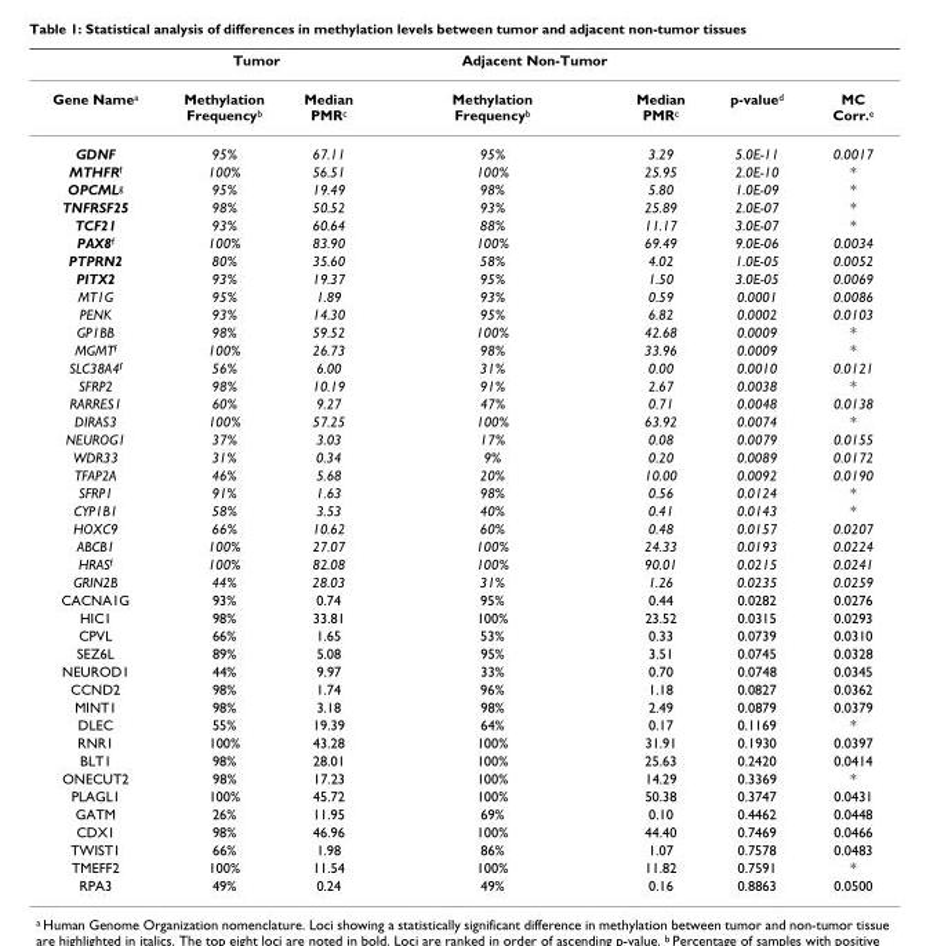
<table><thead><tr><td></td><td>Tumor</td><td></td><td>Adjacent Non-Tumor</td><td></td><td></td><td></td></tr></thead><tbody><tr><td>Gene Name<sup>a</sup></td><td>Methylation Frequency<sup>b</sup></td><td>Median PMR<sup>c</sup></td><td>Methylation Frequency<sup>b</sup></td><td>Median PMR<sup>c</sup></td><td>p-value<sup>d</sup></td><td>MC Corr.<sup>e</sup></td></tr><tr><td>GDNF</td><td>95%</td><td>67.11</td><td>95%</td><td>3.29</td><td>5.0E-11</td><td>0.0017</td></tr><tr><td>MTHFR<sup>f</sup></td><td>100%</td><td>56.51</td><td>100%</td><td>25.95</td><td>2.0E-10</td><td>*</td></tr><tr><td>OPCML<sup>g</sup></td><td>95%</td><td>19.49</td><td>98%</td><td>5.80</td><td>1.0E-09</td><td>*</td></tr><tr><td>TNFRSF25</td><td>98%</td><td>50.52</td><td>93%</td><td>25.89</td><td>2.0E-07</td><td>*</td></tr><tr><td>TCF21</td><td>93%</td><td>60.64</td><td>88%</td><td>11.17</td><td>3.0E-07</td><td>*</td></tr><tr><td>PAX8<sup>f</sup></td><td>100%</td><td>83.90</td><td>100%</td><td>69.49</td><td>9.0E-06</td><td>0.0034</td></tr><tr><td>PTPRN2</td><td>80%</td><td>35.60</td><td>58%</td><td>4.02</td><td>1.0E-05</td><td>0.0052</td></tr><tr><td>PITX2</td><td>93%</td><td>19.37</td><td>95%</td><td>1.50</td><td>3.0E-05</td><td>0.0069</td></tr><tr><td>MT1G</td><td>95%</td><td>1.89</td><td>93%</td><td>0.59</td><td>0.0001</td><td>0.0086</td></tr><tr><td>PENK</td><td>93%</td><td>14.30</td><td>95%</td><td>6.82</td><td>0.0002</td><td>0.0103</td></tr><tr><td>GP1BB</td><td>98%</td><td>59.52</td><td>100%</td><td>42.68</td><td>0.0009</td><td>*</td></tr><tr><td>MGMT<sup>f</sup></td><td>100%</td><td>26.73</td><td>98%</td><td>33.96</td><td>0.0009</td><td>*</td></tr><tr><td>SLC38A4<sup>f</sup></td><td>56%</td><td>6.00</td><td>31%</td><td>0.00</td><td>0.0010</td><td>0.0121</td></tr><tr><td>SFRP2</td><td>98%</td><td>10.19</td><td>91%</td><td>2.67</td><td>0.0038</td><td>*</td></tr><tr><td>RARRES1</td><td>60%</td><td>9.27</td><td>47%</td><td>0.71</td><td>0.0048</td><td>0.0138</td></tr><tr><td>DIRAS3</td><td>100%</td><td>57.25</td><td>100%</td><td>63.92</td><td>0.0074</td><td>*</td></tr><tr><td>NEUROG1</td><td>37%</td><td>3.03</td><td>17%</td><td>0.08</td><td>0.0079</td><td>0.0155</td></tr><tr><td>WDR33</td><td>31%</td><td>0.34</td><td>9%</td><td>0.20</td><td>0.0089</td><td>0.0172</td></tr><tr><td>TFAP2A</td><td>46%</td><td>5.68</td><td>20%</td><td>10.00</td><td>0.0092</td><td>0.0190</td></tr><tr><td>SFRP1</td><td>91%</td><td>1.63</td><td>98%</td><td>0.56</td><td>0.0124</td><td>*</td></tr><tr><td>CYP1B1</td><td>58%</td><td>3.53</td><td>40%</td><td>0.41</td><td>0.0143</td><td>*</td></tr><tr><td>HOXC9</td><td>66%</td><td>10.62</td><td>60%</td><td>0.48</td><td>0.0157</td><td>0.0207</td></tr><tr><td>ABCB1</td><td>100%</td><td>27.07</td><td>100%</td><td>24.33</td><td>0.0193</td><td>0.0224</td></tr><tr><td>HRAS<sup>f</sup></td><td>100%</td><td>82.08</td><td>100%</td><td>90.01</td><td>0.0215</td><td>0.0241</td></tr><tr><td>GRIN2B</td><td>44%</td><td>28.03</td><td>31%</td><td>1.26</td><td>0.0235</td><td>0.0259</td></tr><tr><td>CACNA1G</td><td>93%</td><td>0.74</td><td>95%</td><td>0.44</td><td>0.0282</td><td>0.0276</td></tr><tr><td>HIC1</td><td>98%</td><td>33.81</td><td>100%</td><td>23.52</td><td>0.0315</td><td>0.0293</td></tr><tr><td>CPVL</td><td>66%</td><td>1.65</td><td>53%</td><td>0.33</td><td>0.0739</td><td>0.0310</td></tr><tr><td>SEZ6L</td><td>89%</td><td>5.08</td><td>95%</td><td>3.51</td><td>0.0745</td><td>0.0328</td></tr><tr><td>NEUROD1</td><td>44%</td><td>9.97</td><td>33%</td><td>0.70</td><td>0.0748</td><td>0.0345</td></tr><tr><td>CCND2</td><td>98%</td><td>1.74</td><td>96%</td><td>1.18</td><td>0.0827</td><td>0.0362</td></tr><tr><td>MINT1</td><td>98%</td><td>3.18</td><td>98%</td><td>2.49</td><td>0.0879</td><td>0.0379</td></tr><tr><td>DLEC</td><td>55%</td><td>19.39</td><td>64%</td><td>0.17</td><td>0.1169</td><td>*</td></tr><tr><td>RNR1</td><td>100%</td><td>43.28</td><td>100%</td><td>31.91</td><td>0.1930</td><td>0.0397</td></tr><tr><td>BLT1</td><td>98%</td><td>28.01</td><td>100%</td><td>25.63</td><td>0.2420</td><td>0.0414</td></tr><tr><td>ONECUT2</td><td>98%</td><td>17.23</td><td>100%</td><td>14.29</td><td>0.3369</td><td>*</td></tr><tr><td>PLAGL1</td><td>100%</td><td>45.72</td><td>100%</td><td>50.38</td><td>0.3747</td><td>0.0431</td></tr><tr><td>GATM</td><td>26%</td><td>11.95</td><td>69%</td><td>0.10</td><td>0.4462</td><td>0.0448</td></tr><tr><td>CDX1</td><td>98%</td><td>46.96</td><td>100%</td><td>44.40</td><td>0.7469</td><td>0.0466</td></tr><tr><td>TWIST1</td><td>66%</td><td>1.98</td><td>86%</td><td>1.07</td><td>0.7578</td><td>0.0483</td></tr><tr><td>TMEFF2</td><td>100%</td><td>11.54</td><td>100%</td><td>11.82</td><td>0.7591</td><td>*</td></tr><tr><td>RPA3</td><td>49%</td><td>0.24</td><td>49%</td><td>0.16</td><td>0.8863</td><td>0.0500</td></tr></tbody></table>